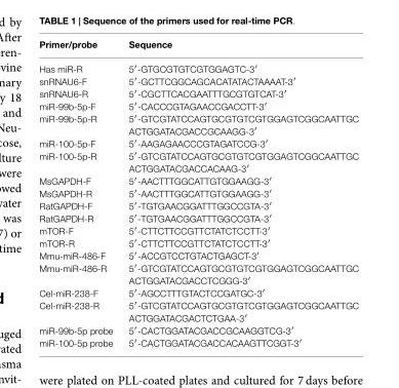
<table><thead><tr><td>Primer/probe</td><td>Sequence</td></tr></thead><tbody><tr><td>Has miR-R</td><td>5′-GTGCGTGTCGTGGAGTC-3′</td></tr><tr><td>snRNAU6-F</td><td>5′-GCTTCGGCAGCACATATACTAAAAT-3′</td></tr><tr><td>snRNAU6-R</td><td>5′-CGCTTCACGAATTTGCGTGTCAT-3′</td></tr><tr><td>miR-99b-5p-F</td><td>5′-CACCCGTAGAACCGACCTT-3′</td></tr><tr><td>miR-99b-5p-R</td><td>5′-GTCGTATCCAGTGCGTGTCGTGGAGTCGGCAATTGC ACTGGATACGACCGCAAGG-3′</td></tr><tr><td>miR-100-5p-F</td><td>5′-AAGAGAACCCGTAGATCCG-3′</td></tr><tr><td>miR-100-5p-R</td><td>5′-GTCGTATCCAGTGCGTGTCGTGGAGTCGGCAATTGC ACTGGATACGACCACAAG-3′</td></tr><tr><td>MsGAPDH-F</td><td>5′-AACTTTGGCATTGTGGAAGG-3′</td></tr><tr><td>MsGAPDH-R</td><td>5′-AACTTTGGCATTGTGGAAGG-3′</td></tr><tr><td>RatGAPDH-F</td><td>5′-TGTGAACGGATTTGGCCGTA-3′</td></tr><tr><td>RatGAPDH-R</td><td>5′-TGTGAACGGATTTGGCCGTA-3′</td></tr><tr><td>mTOR-F</td><td>5′-CTTCTTCCGTTCTATCTCCTT-3′</td></tr><tr><td>mTOR-R</td><td>5′-CTTCTTCCGTTCTATCTCCTT-3′</td></tr><tr><td>Mmu-miR-486-F</td><td>5′-ACCGTCCTGTACTGAGCT-3′</td></tr><tr><td>Mmu-miR-486-R</td><td>5′-GTCGTATCCAGTGCGTGTCGTGGAGTCGGCAATTGC ACTGGATACGACCTCGGG-3′</td></tr><tr><td>Cel-miR-238-F</td><td>5′-AGCCTTTGTACTCCGATGC-3′</td></tr><tr><td>Cel-miR-238-R</td><td>5′-GTCGTATCCAGTGCGTGTCGTGGAGTCGGCAATTGC ACTGGATACGACTCTGAA-3′</td></tr><tr><td>miR-99b-5p probe</td><td>5′-CACTGGATACGACCGCAAGGTCG-3′</td></tr><tr><td>miR-100-5p probe</td><td>5′-CACTGGATACGACCACAAGTTCGGT-3′</td></tr></tbody></table>